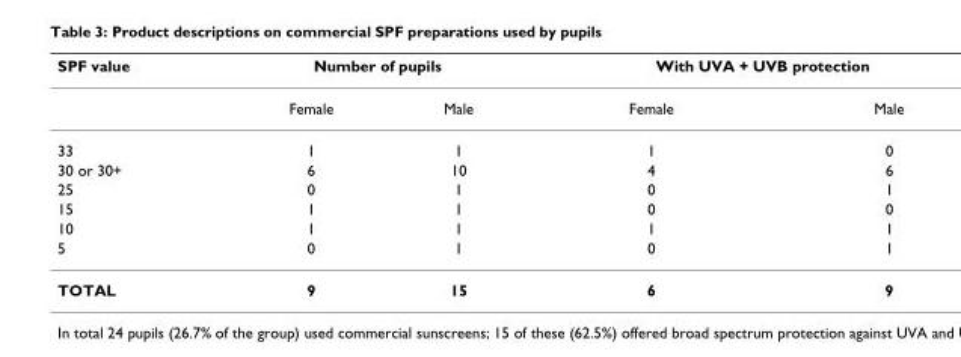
<table><thead><tr><td rowspan="2">SPF value</td><td colspan="2">Number of pupils</td><td colspan="2">With UVA + UVB protection</td></tr><tr><td>Female</td><td>Male</td><td>Female</td><td>Male</td></tr></thead><tbody><tr><td>33</td><td>1</td><td>1</td><td>1</td><td>0</td></tr><tr><td>30 or 30+</td><td>6</td><td>10</td><td>4</td><td>6</td></tr><tr><td>25</td><td>0</td><td>1</td><td>0</td><td>1</td></tr><tr><td>15</td><td>1</td><td>1</td><td>0</td><td>0</td></tr><tr><td>10</td><td>1</td><td>1</td><td>1</td><td>1</td></tr><tr><td>5</td><td>0</td><td>1</td><td>0</td><td>1</td></tr><tr><td>TOTAL</td><td>9</td><td>15</td><td>6</td><td>9</td></tr></tbody></table>